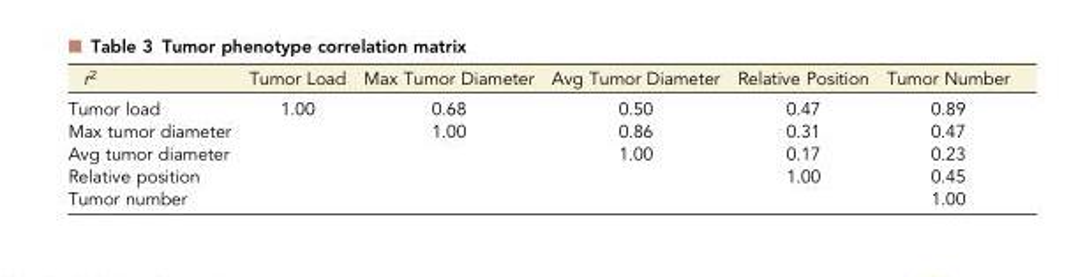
<table><thead><tr><td>r<sup>2</sup></td><td>Tumor Load</td><td>Max Tumor Diameter</td><td>Avg Tumor Diameter</td><td>Relative Position</td><td>Tumor Number</td></tr></thead><tbody><tr><td>Tumor load</td><td>1.00</td><td>0.68</td><td>0.50</td><td>0.47</td><td>0.89</td></tr><tr><td>Max tumor diameter</td><td></td><td>1.00</td><td>0.86</td><td>0.31</td><td>0.47</td></tr><tr><td>Avg tumor diameter</td><td></td><td></td><td>1.00</td><td>0.17</td><td>0.23</td></tr><tr><td>Relative position</td><td></td><td></td><td></td><td>1.00</td><td>0.45</td></tr><tr><td>Tumor number</td><td></td><td></td><td></td><td></td><td>1.00</td></tr></tbody></table>